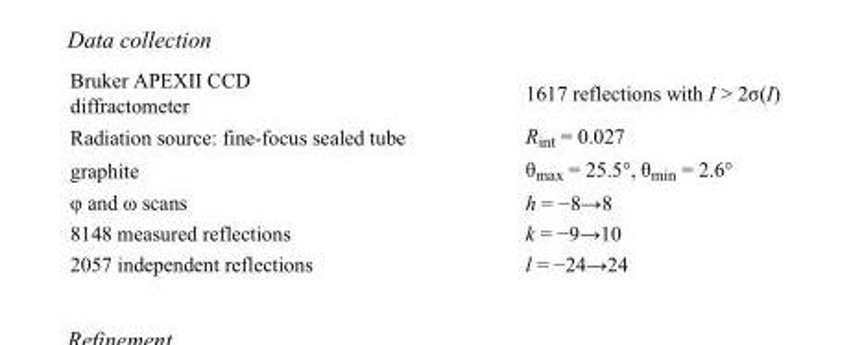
<table><tbody><tr><td>Bruker APEXII CCD diffractometer</td><td>1617 reflections with I &gt; 2σ(I)</td></tr><tr><td>Radiation source: fine-focus sealed tube</td><td>R<sub>int</sub> = 0.027</td></tr><tr><td>graphite</td><td>θ<sub>max</sub> = 25.5°, θ<sub>min</sub> = 2.6°</td></tr><tr><td>φ and ω scans</td><td>h = −8→8</td></tr><tr><td>8148 measured reflections</td><td>k = −9→10</td></tr><tr><td>2057 independent reflections</td><td>l = −24→24</td></tr></tbody></table>